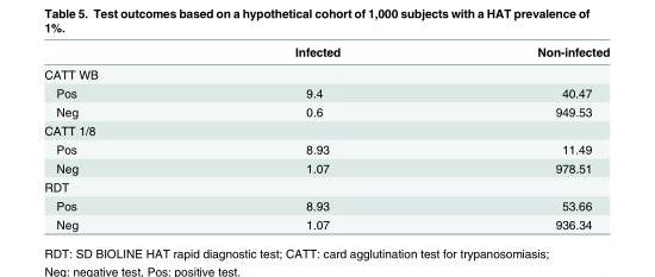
<table><thead><tr><td></td><td>Infected</td><td>Non-infected</td></tr></thead><tbody><tr><td colspan="3">CATT WB</td></tr><tr><td>Pos</td><td>9.4</td><td>40.47</td></tr><tr><td>Neg</td><td>0.6</td><td>949.53</td></tr><tr><td colspan="3">CATT 1/8</td></tr><tr><td>Pos</td><td>8.93</td><td>11.49</td></tr><tr><td>Neg</td><td>1.07</td><td>978.51</td></tr><tr><td colspan="3">RDT</td></tr><tr><td>Pos</td><td>8.93</td><td>53.66</td></tr><tr><td>Neg</td><td>1.07</td><td>936.34</td></tr></tbody></table>